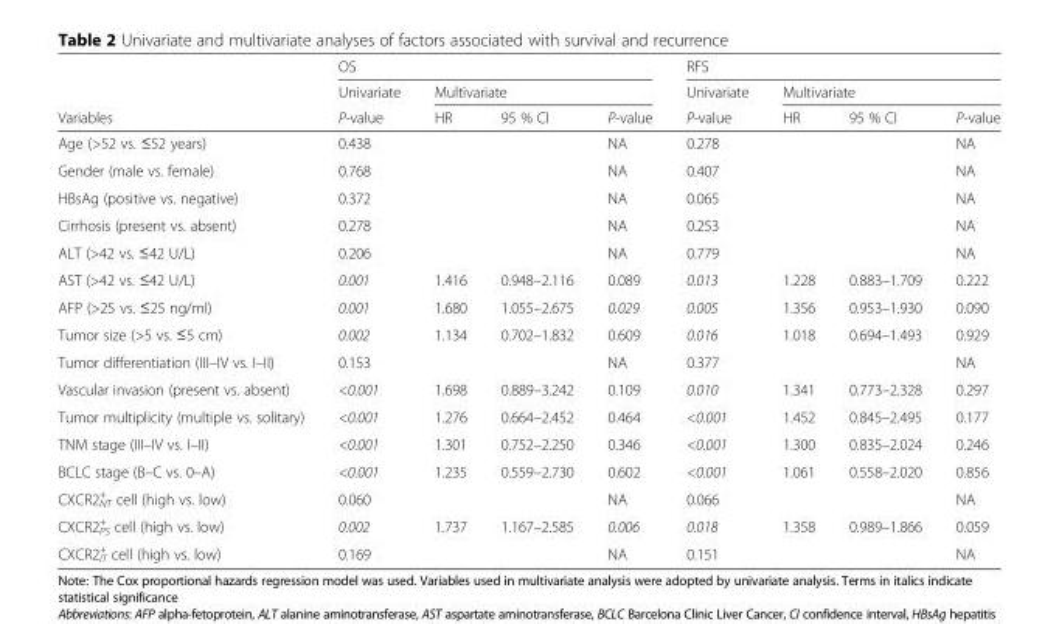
<table><thead><tr><td rowspan="3">Variables</td><td colspan="4">OS</td><td colspan="4">RFS</td></tr><tr><td rowspan="2">Univariate P-value</td><td colspan="3">Multivariate</td><td rowspan="2">Univariate P-value</td><td colspan="3">Multivariate</td></tr><tr><td>HR</td><td>95 % CI</td><td>P-value</td><td>HR</td><td>95 % CI</td><td>P-value</td></tr></thead><tbody><tr><td>Age (&gt;52 vs. ≤52 years)</td><td>0.438</td><td></td><td></td><td>NA</td><td>0.278</td><td></td><td></td><td>NA</td></tr><tr><td>Gender (male vs. female)</td><td>0.768</td><td></td><td></td><td>NA</td><td>0.407</td><td></td><td></td><td>NA</td></tr><tr><td>HBsAg (positive vs. negative)</td><td>0.372</td><td></td><td></td><td>NA</td><td>0.065</td><td></td><td></td><td>NA</td></tr><tr><td>Cirrhosis (present vs. absent)</td><td>0.278</td><td></td><td></td><td>NA</td><td>0.253</td><td></td><td></td><td>NA</td></tr><tr><td>ALT (&gt;42 vs. ≤42 U/L)</td><td>0.206</td><td></td><td></td><td>NA</td><td>0.779</td><td></td><td></td><td>NA</td></tr><tr><td>AST (&gt;42 vs. ≤42 U/L)</td><td>0.001</td><td>1.416</td><td>0.948–2.116</td><td>0.089</td><td>0.013</td><td>1.228</td><td>0.883–1.709</td><td>0.222</td></tr><tr><td>AFP (&gt;25 vs. ≤25 ng/ml)</td><td>0.001</td><td>1.680</td><td>1.055–2.675</td><td>0.029</td><td>0.005</td><td>1.356</td><td>0.953–1.930</td><td>0.090</td></tr><tr><td>Tumor size (&gt;5 vs. ≤5 cm)</td><td>0.002</td><td>1.134</td><td>0.702–1.832</td><td>0.609</td><td>0.016</td><td>1.018</td><td>0.694–1.493</td><td>0.929</td></tr><tr><td>Tumor differentiation (III–IV vs. I–II)</td><td>0.153</td><td></td><td></td><td>NA</td><td>0.377</td><td></td><td></td><td>NA</td></tr><tr><td>Vascular invasion (present vs. absent)</td><td>&lt;0.001</td><td>1.698</td><td>0.889–3.242</td><td>0.109</td><td>0.010</td><td>1.341</td><td>0.773–2.328</td><td>0.297</td></tr><tr><td>Tumor multiplicity (multiple vs. solitary)</td><td>&lt;0.001</td><td>1.276</td><td>0.664–2.452</td><td>0.464</td><td>&lt;0.001</td><td>1.452</td><td>0.845–2.495</td><td>0.177</td></tr><tr><td>TNM stage (III–IV vs. I–II)</td><td>&lt;0.001</td><td>1.301</td><td>0.752–2.250</td><td>0.346</td><td>&lt;0.001</td><td>1.300</td><td>0.835–2.024</td><td>0.246</td></tr><tr><td>BCLC stage (B–C vs. 0–A)</td><td>&lt;0.001</td><td>1.235</td><td>0.559–2.730</td><td>0.602</td><td>&lt;0.001</td><td>1.061</td><td>0.558–2.020</td><td>0.856</td></tr><tr><td>CXCR2<sup>+</sup> <sub>NT</sub> cell (high vs. low)</td><td>0.060</td><td></td><td></td><td>NA</td><td>0.066</td><td></td><td></td><td>NA</td></tr><tr><td>CXCR2<sup>+</sup> <sub>PS</sub> cell (high vs. low)</td><td>0.002</td><td>1.737</td><td>1.167–2.585</td><td>0.006</td><td>0.018</td><td>1.358</td><td>0.989–1.866</td><td>0.059</td></tr><tr><td>CXCR2<sup>+</sup> <sub>IT</sub> cell (high vs. low)</td><td>0.169</td><td></td><td></td><td>NA</td><td>0.151</td><td></td><td></td><td>NA</td></tr></tbody></table>